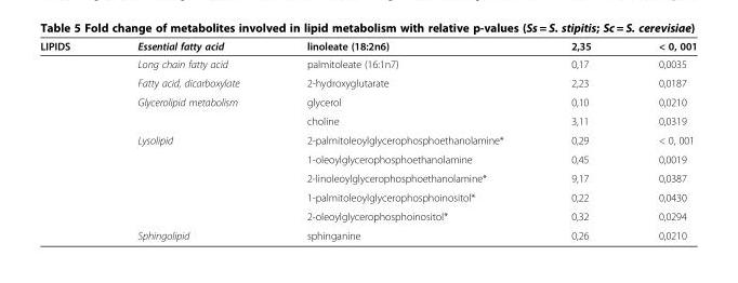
<table><thead><tr><td>LIPIDS</td><td>Essential fatty acid</td><td>linoleate (18:2n6)</td><td>2,35</td><td>&lt; 0, 001</td></tr></thead><tbody><tr><td></td><td>Long chain fatty acid</td><td>palmitoleate (16:1n7)</td><td>0,17</td><td>0,0035</td></tr><tr><td></td><td>Fatty acid, dicarboxylate</td><td>2-hydroxyglutarate</td><td>2,23</td><td>0,0187</td></tr><tr><td></td><td>Glycerolipid metabolism</td><td>glycerol</td><td>0,10</td><td>0,0210</td></tr><tr><td></td><td></td><td>choline</td><td>3,11</td><td>0,0319</td></tr><tr><td></td><td>Lysolipid</td><td>2-palmitoleoylglycerophosphoethanolamine*</td><td>0,29</td><td>&lt; 0, 001</td></tr><tr><td></td><td></td><td>1-oleoylglycerophosphoethanolamine</td><td>0,45</td><td>0,0019</td></tr><tr><td></td><td></td><td>2-linoleoylglycerophosphoethanolamine*</td><td>9,17</td><td>0,0387</td></tr><tr><td></td><td></td><td>1-palmitoleoylglycerophosphoinositol*</td><td>0,22</td><td>0,0430</td></tr><tr><td></td><td></td><td>2-oleoylglycerophosphoinositol*</td><td>0,32</td><td>0,0294</td></tr><tr><td></td><td>Sphingolipid</td><td>sphinganine</td><td>0,26</td><td>0,0210</td></tr></tbody></table>